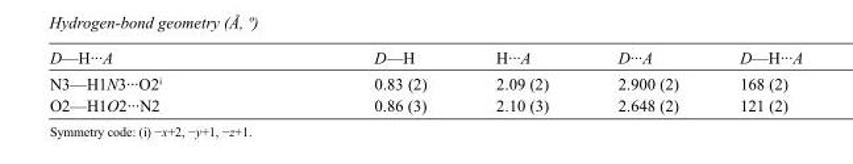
<table><tbody><tr><td>D—H···A</td><td>D—H</td><td>H···A</td><td>D···A</td><td>D—H···A</td></tr><tr><td>N3—H1N3···O2<sup>i</sup></td><td>0.83 (2)</td><td>2.09 (2)</td><td>2.900 (2)</td><td>168 (2)</td></tr><tr><td>O2—H1O2···N2</td><td>0.86 (3)</td><td>2.10 (3)</td><td>2.648 (2)</td><td>121 (2)</td></tr></tbody></table>